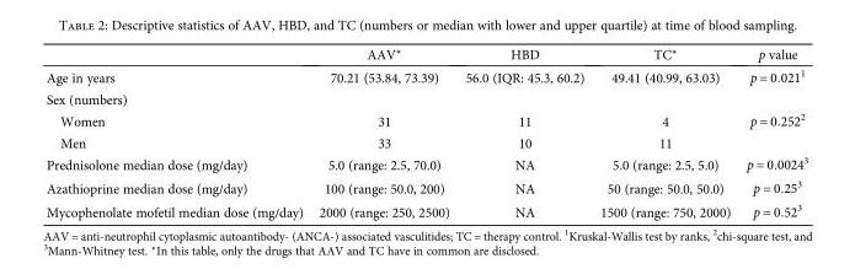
<table><thead><tr><td></td><td>AAV∗</td><td>HBD</td><td>TC∗</td><td>p value</td></tr></thead><tbody><tr><td>Age in years</td><td>70.21 (53.84, 73.39)</td><td>56.0 (IQR: 45.3, 60.2)</td><td>49.41 (40.99, 63.03)</td><td>p = 0 0211</td></tr><tr><td colspan="5">Sex (numbers)</td></tr><tr><td>Women</td><td>31</td><td>11</td><td>4</td><td>p = 0 2522</td></tr><tr><td>Men</td><td>33</td><td>10</td><td>11</td><td></td></tr><tr><td>Prednisolone median dose (mg/day)</td><td>5.0 (range: 2.5, 70.0)</td><td>NA</td><td>5.0 (range: 2.5, 5.0)</td><td>p = 0 00243</td></tr><tr><td>Azathioprine median dose (mg/day)</td><td>100 (range: 50.0, 200)</td><td>NA</td><td>50 (range: 50.0, 50.0)</td><td>p = 0 253</td></tr><tr><td>Mycophenolate mofetil median dose (mg/day)</td><td>2000 (range: 250, 2500)</td><td>NA</td><td>1500 (range: 750, 2000)</td><td>p = 0 523</td></tr></tbody></table>